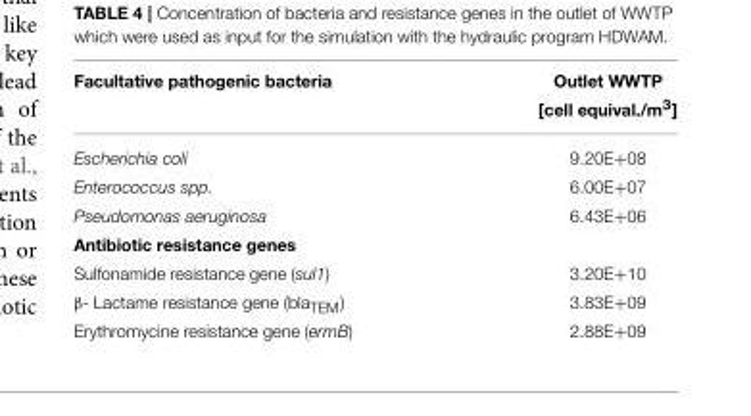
<table><thead><tr><td rowspan="2">Facultative pathogenic bacteria</td><td rowspan="2">Outlet WWTP [cell equival./m<sup>3</sup>]</td></tr><tr></tr></thead><tbody><tr><td>Escherichia coli</td><td>9.20E+08</td></tr><tr><td>Enterococcus spp.</td><td>6.00E+07</td></tr><tr><td>Pseudomonas aeruginosa</td><td>6.43E+06</td></tr><tr><td colspan="2">Antibiotic resistance genes</td></tr><tr><td>Sulfonamide resistance gene (sul1)</td><td>3.20E+10</td></tr><tr><td>β- Lactame resistance gene (bla<sub>TEM</sub>)</td><td>3.83E+09</td></tr><tr><td>Erythromycine resistance gene (ermB)</td><td>2.88E+09</td></tr></tbody></table>